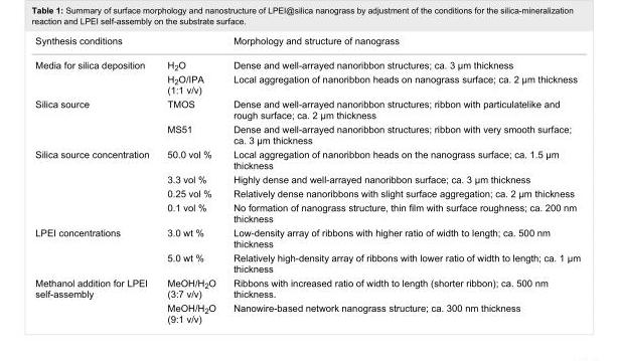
<table><tbody><tr><td colspan="2">Synthesis conditions</td><td>Morphology and structure of nanograss</td></tr><tr><td rowspan="2">Media for silica deposition</td><td>H<sub>2</sub>O</td><td>Dense and well-arrayed nanoribbon structures; ca. 3 μm thickness</td></tr><tr><td>H<sub>2</sub>O/IPA (1:1 v/v)</td><td>Local aggregation of nanoribbon heads on nanograss surface; ca. 2 μm thickness</td></tr><tr><td rowspan="2">Silica source</td><td>TMOS</td><td>Dense and well-arrayed nanoribbon structures; ribbon with particulatelike and rough surface; ca. 2 μm thickness</td></tr><tr><td>MS51</td><td>Dense and well-arrayed nanoribbon structures; ribbon with very smooth surface; ca. 3 μm thickness</td></tr><tr><td rowspan="4">Silica source concentration</td><td>50.0 vol %</td><td>Local aggregation of nanoribbon heads on the nanograss surface; ca. 1.5 μm thickness</td></tr><tr><td>3.3 vol %</td><td>Highly dense and well-arrayed nanoribbon surface; ca. 3 μm thickness</td></tr><tr><td>0.25 vol %</td><td>Relatively dense nanoribbons with slight surface aggregation; ca. 2 μm thickness</td></tr><tr><td>0.1 vol %</td><td>No formation of nanograss structure, thin film with surface roughness; ca. 200 nm thickness</td></tr><tr><td rowspan="2">LPEI concentrations</td><td>3.0 wt %</td><td>Low-density array of ribbons with higher ratio of width to length; ca. 500 nm thickness</td></tr><tr><td>5.0 wt %</td><td>Relatively high-density array of ribbons with lower ratio of width to length; ca. 1 μm thickness</td></tr><tr><td rowspan="2">Methanol addition for LPEI self-assembly</td><td>MeOH/H<sub>2</sub>O (3:7 v/v)</td><td>Ribbons with increased ratio of width to length (shorter ribbon); ca. 500 nm thickness.</td></tr><tr><td>MeOH/H<sub>2</sub>O (9:1 v/v)</td><td>Nanowire-based network nanograss structure; ca. 300 nm thickness</td></tr></tbody></table>